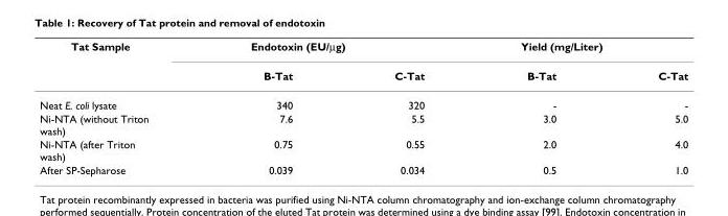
<table><thead><tr><td rowspan="2">Tat Sample</td><td colspan="2">Endotoxin (EU/μg)</td><td colspan="2">Yield (mg/Liter)</td></tr><tr><td>B-Tat</td><td>C-Tat</td><td>B-Tat</td><td>C-Tat</td></tr></thead><tbody><tr><td>Neat E. coli lysate</td><td>340</td><td>320</td><td>-</td><td>-</td></tr><tr><td>Ni-NTA (without Triton wash)</td><td>7.6</td><td>5.5</td><td>3.0</td><td>5.0</td></tr><tr><td>Ni-NTA (after Triton wash)</td><td>0.75</td><td>0.55</td><td>2.0</td><td>4.0</td></tr><tr><td>After SP-Sepharose</td><td>0.039</td><td>0.034</td><td>0.5</td><td>1.0</td></tr></tbody></table>